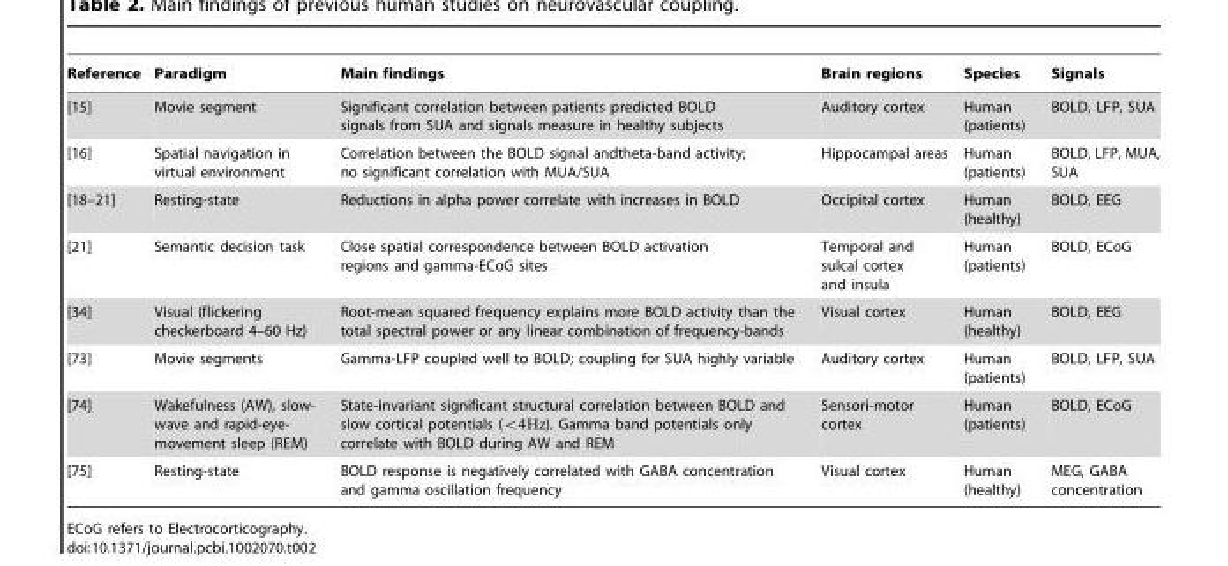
<table><thead><tr><td>Reference</td><td>Paradigm</td><td>Main findings</td><td>Brain regions</td><td>Species</td><td>Signals</td></tr></thead><tbody><tr><td>[15]</td><td>Movie segment</td><td>Significant correlation between patients predicted BOLD signals from SUA and signals measure in healthy subjects</td><td>Auditory cortex</td><td>Human (patients)</td><td>BOLD, LFP, SUA</td></tr><tr><td>[16]</td><td>Spatial navigation in virtual environment</td><td>Correlation between the BOLD signal andtheta-band activity; no significant correlation with MUA/SUA</td><td>Hippocampal areas</td><td>Human (patients)</td><td>BOLD, LFP, MUA, SUA</td></tr><tr><td>[18–21]</td><td>Resting-state</td><td>Reductions in alpha power correlate with increases in BOLD</td><td>Occipital cortex</td><td>Human (healthy)</td><td>BOLD, EEG</td></tr><tr><td>[21]</td><td>Semantic decision task</td><td>Close spatial correspondence between BOLD activation regions and gamma-ECoG sites</td><td>Temporal and sulcal cortex and insula</td><td>Human (patients)</td><td>BOLD, ECoG</td></tr><tr><td>[34]</td><td>Visual (flickering checkerboard 4–60 Hz)</td><td>Root-mean squared frequency explains more BOLD activity than the total spectral power or any linear combination of frequency-bands</td><td>Visual cortex</td><td>Human (healthy)</td><td>BOLD, EEG</td></tr><tr><td>[73]</td><td>Movie segments</td><td>Gamma-LFP coupled well to BOLD; coupling for SUA highly variable</td><td>Auditory cortex</td><td>Human (patients)</td><td>BOLD, LFP, SUA</td></tr><tr><td>[74]</td><td>Wakefulness (AW), slow- wave and rapid-eye- movement sleep (REM)</td><td>State-invariant significant structural correlation between BOLD and slow cortical potentials (v4Hz). Gamma band potentials only correlate with BOLD during AW and REM</td><td>Sensori-motor cortex</td><td>Human (patients)</td><td>BOLD, ECoG</td></tr><tr><td>[75]</td><td>Resting-state</td><td>BOLD response is negatively correlated with GABA concentration and gamma oscillation frequency</td><td>Visual cortex</td><td>Human (healthy)</td><td>MEG, GABA concentration</td></tr></tbody></table>